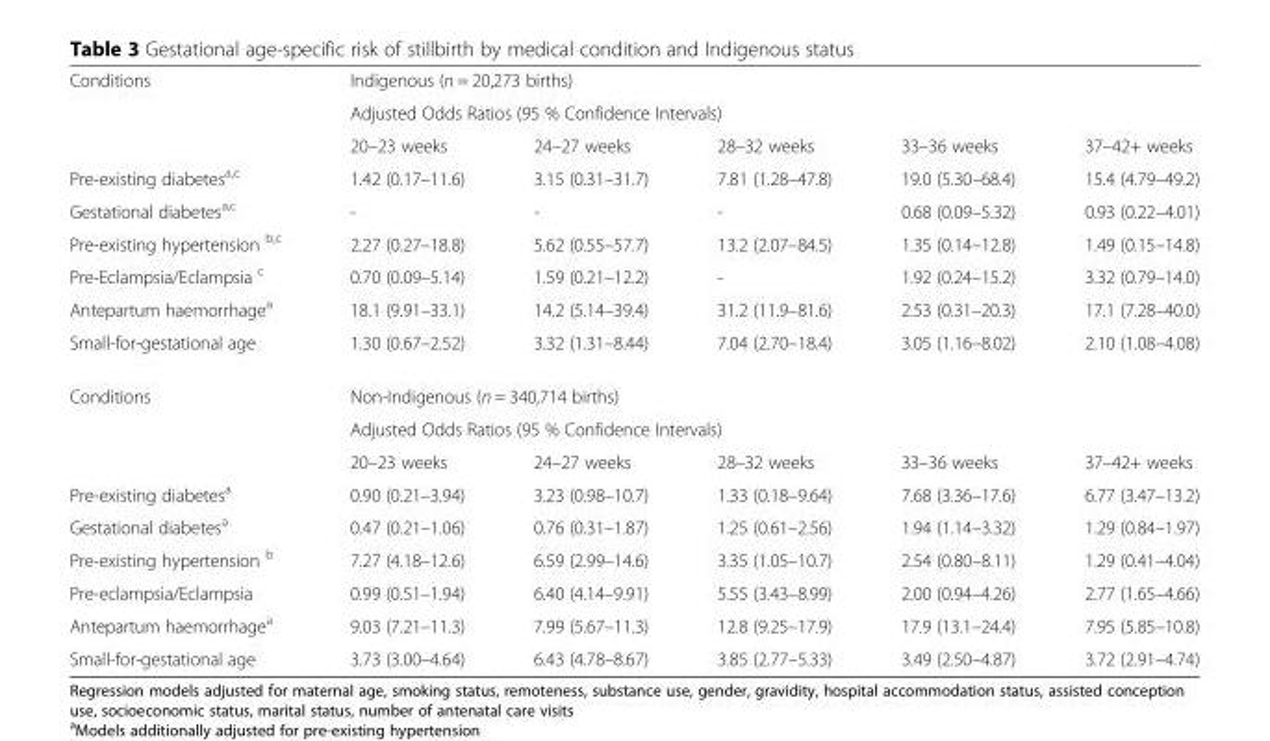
<table><tbody><tr><td rowspan="3">Conditions</td><td colspan="5">Indigenous (n = 20,273 births)</td></tr><tr><td colspan="5">Adjusted Odds Ratios (95 % Confidence Intervals)</td></tr><tr><td>20–23 weeks</td><td>24–27 weeks</td><td>28–32 weeks</td><td>33–36 weeks</td><td>37–42+ weeks</td></tr><tr><td>Pre-existing diabetes<sup>a,c</sup></td><td>1.42 (0.17–11.6)</td><td>3.15 (0.31–31.7)</td><td>7.81 (1.28–47.8)</td><td>19.0 (5.30–68.4)</td><td>15.4 (4.79–49.2)</td></tr><tr><td>Gestational diabetes<sup>a,c</sup></td><td>-</td><td>-</td><td>-</td><td>0.68 (0.09–5.32)</td><td>0.93 (0.22–4.01)</td></tr><tr><td>Pre-existing hypertension <sup>b,c</sup></td><td>2.27 (0.27–18.8)</td><td>5.62 (0.55–57.7)</td><td>13.2 (2.07–84.5)</td><td>1.35 (0.14–12.8)</td><td>1.49 (0.15–14.8)</td></tr><tr><td>Pre-Eclampsia/Eclampsia <sup>c</sup></td><td>0.70 (0.09–5.14)</td><td>1.59 (0.21–12.2)</td><td>-</td><td>1.92 (0.24–15.2)</td><td>3.32 (0.79–14.0)</td></tr><tr><td>Antepartum haemorrhage<sup>a</sup></td><td>18.1 (9.91–33.1)</td><td>14.2 (5.14–39.4)</td><td>31.2 (11.9–81.6)</td><td>2.53 (0.31–20.3)</td><td>17.1 (7.28–40.0)</td></tr><tr><td>Small-for-gestational age</td><td>1.30 (0.67–2.52)</td><td>3.32 (1.31–8.44)</td><td>7.04 (2.70–18.4)</td><td>3.05 (1.16–8.02)</td><td>2.10 (1.08–4.08)</td></tr><tr><td rowspan="3">Conditions</td><td colspan="5">Non-Indigenous (n = 340,714 births)</td></tr><tr><td colspan="5">Adjusted Odds Ratios (95 % Confidence Intervals)</td></tr><tr><td>20–23 weeks</td><td>24–27 weeks</td><td>28–32 weeks</td><td>33–36 weeks</td><td>37–42+ weeks</td></tr><tr><td>Pre-existing diabetes<sup>a</sup></td><td>0.90 (0.21–3.94)</td><td>3.23 (0.98–10.7)</td><td>1.33 (0.18–9.64)</td><td>7.68 (3.36–17.6)</td><td>6.77 (3.47–13.2)</td></tr><tr><td>Gestational diabetes<sup>a</sup></td><td>0.47 (0.21–1.06)</td><td>0.76 (0.31–1.87)</td><td>1.25 (0.61–2.56)</td><td>1.94 (1.14–3.32)</td><td>1.29 (0.84–1.97)</td></tr><tr><td>Pre-existing hypertension <sup>b</sup></td><td>7.27 (4.18–12.6)</td><td>6.59 (2.99–14.6)</td><td>3.35 (1.05–10.7)</td><td>2.54 (0.80–8.11)</td><td>1.29 (0.41–4.04)</td></tr><tr><td>Pre-eclampsia/Eclampsia</td><td>0.99 (0.51–1.94)</td><td>6.40 (4.14–9.91)</td><td>5.55 (3.43–8.99)</td><td>2.00 (0.94–4.26)</td><td>2.77 (1.65–4.66)</td></tr><tr><td>Antepartum haemorrhage<sup>a</sup></td><td>9.03 (7.21–11.3)</td><td>7.99 (5.67–11.3)</td><td>12.8 (9.25–17.9)</td><td>17.9 (13.1–24.4)</td><td>7.95 (5.85–10.8)</td></tr><tr><td>Small-for-gestational age</td><td>3.73 (3.00–4.64)</td><td>6.43 (4.78–8.67)</td><td>3.85 (2.77–5.33)</td><td>3.49 (2.50–4.87)</td><td>3.72 (2.91–4.74)</td></tr></tbody></table>